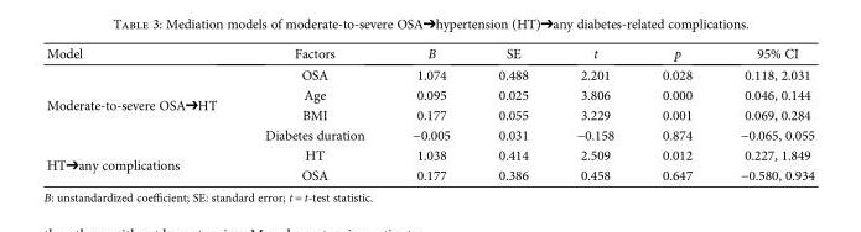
<table><thead><tr><td>Model</td><td>Factors</td><td>B</td><td>SE</td><td>t</td><td>p</td><td>95% CI</td></tr></thead><tbody><tr><td rowspan="4">Moderate-to-severe OSA➔HT</td><td>OSA</td><td>1.074</td><td>0.488</td><td>2.201</td><td>0.028</td><td>0.118, 2.031</td></tr><tr><td>Age</td><td>0.095</td><td>0.025</td><td>3.806</td><td>0.000</td><td>0.046, 0.144</td></tr><tr><td>BMI</td><td>0.177</td><td>0.055</td><td>3.229</td><td>0.001</td><td>0.069, 0.284</td></tr><tr><td>Diabetes duration</td><td>−0.005</td><td>0.031</td><td>−0.158</td><td>0.874</td><td>−0.065, 0.055</td></tr><tr><td rowspan="2">HT➔any complications</td><td>HT</td><td>1.038</td><td>0.414</td><td>2.509</td><td>0.012</td><td>0.227, 1.849</td></tr><tr><td>OSA</td><td>0.177</td><td>0.386</td><td>0.458</td><td>0.647</td><td>−0.580, 0.934</td></tr></tbody></table>